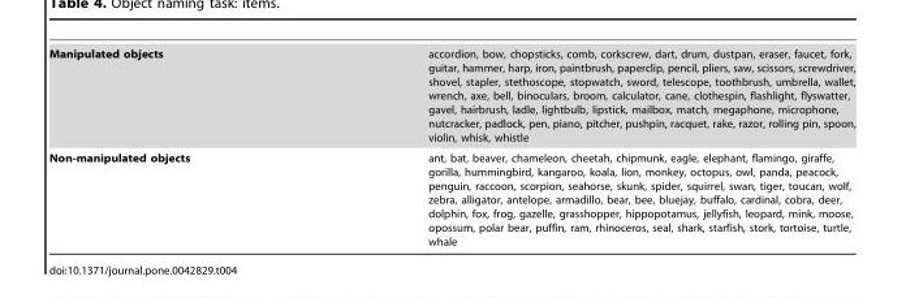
<table><tbody><tr><td>Manipulated objects</td><td>accordion, bow, chopsticks, comb, corkscrew, dart, drum, dustpan, eraser, faucet, fork, guitar, hammer, harp, iron, paintbrush, paperclip, pencil, pliers, saw, scissors, screwdriver, shovel, stapler, stethoscope, stopwatch, sword, telescope, toothbrush, umbrella, wallet, wrench, axe, bell, binoculars, broom, calculator, cane, clothespin, flashlight, flyswatter, gavel, hairbrush, ladle, lightbulb, lipstick, mailbox, match, megaphone, microphone, nutcracker, padlock, pen, piano, pitcher, pushpin, racquet, rake, razor, rolling pin, spoon, violin, whisk, whistle</td></tr><tr><td>Non-manipulated objects</td><td>ant, bat, beaver, chameleon, cheetah, chipmunk, eagle, elephant, flamingo, giraffe, gorilla, hummingbird, kangaroo, koala, lion, monkey, octopus, owl, panda, peacock, penguin, raccoon, scorpion, seahorse, skunk, spider, squirrel, swan, tiger, toucan, wolf, zebra, alligator, antelope, armadillo, bear, bee, bluejay, buffalo, cardinal, cobra, deer, dolphin, fox, frog, gazelle, grasshopper, hippopotamus, jellyfish, leopard, mink, moose, opossum, polar bear, puffin, ram, rhinoceros, seal, shark, starfish, stork, tortoise, turtle, whale</td></tr></tbody></table>